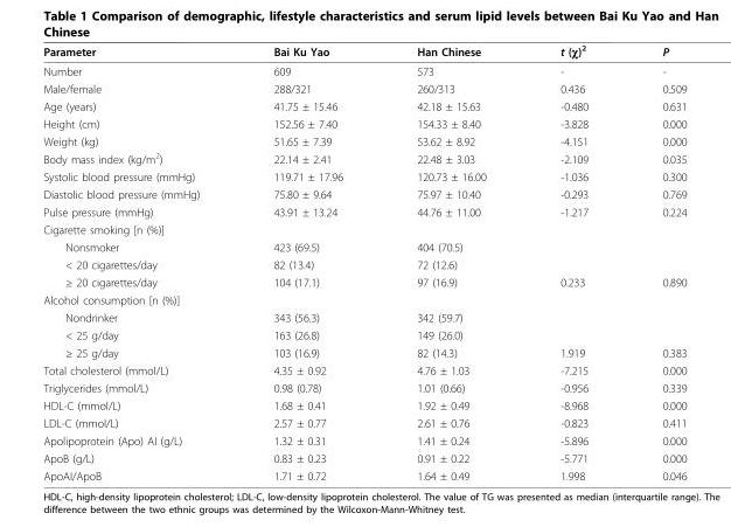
<table><thead><tr><td>Parameter</td><td>Bai Ku Yao</td><td>Han Chinese</td><td>t (χ)<sup>2</sup></td><td>P</td></tr></thead><tbody><tr><td>Number</td><td>609</td><td>573</td><td>-</td><td>-</td></tr><tr><td>Male/female</td><td>288/321</td><td>260/313</td><td>0.436</td><td>0.509</td></tr><tr><td>Age (years)</td><td>41.75 ± 15.46</td><td>42.18 ± 15.63</td><td>-0.480</td><td>0.631</td></tr><tr><td>Height (cm)</td><td>152.56 ± 7.40</td><td>154.33 ± 8.40</td><td>-3.828</td><td>0.000</td></tr><tr><td>Weight (kg)</td><td>51.65 ± 7.39</td><td>53.62 ± 8.92</td><td>-4.151</td><td>0.000</td></tr><tr><td>Body mass index (kg/m<sup>2</sup>)</td><td>22.14 ± 2.41</td><td>22.48 ± 3.03</td><td>-2.109</td><td>0.035</td></tr><tr><td>Systolic blood pressure (mmHg)</td><td>119.71 ± 17.96</td><td>120.73 ± 16.00</td><td>-1.036</td><td>0.300</td></tr><tr><td>Diastolic blood pressure (mmHg)</td><td>75.80 ± 9.64</td><td>75.97 ± 10.40</td><td>-0.293</td><td>0.769</td></tr><tr><td>Pulse pressure (mmHg)</td><td>43.91 ± 13.24</td><td>44.76 ± 11.00</td><td>-1.217</td><td>0.224</td></tr><tr><td colspan="5">Cigarette smoking [n (%)]</td></tr><tr><td>Nonsmoker</td><td>423 (69.5)</td><td>404 (70.5)</td><td></td><td></td></tr><tr><td>&lt; 20 cigarettes/day</td><td>82 (13.4)</td><td>72 (12.6)</td><td></td><td></td></tr><tr><td>≥ 20 cigarettes/day</td><td>104 (17.1)</td><td>97 (16.9)</td><td>0.233</td><td>0.890</td></tr><tr><td colspan="5">Alcohol consumption [n (%)]</td></tr><tr><td>Nondrinker</td><td>343 (56.3)</td><td>342 (59.7)</td><td></td><td></td></tr><tr><td>&lt; 25 g/day</td><td>163 (26.8)</td><td>149 (26.0)</td><td></td><td></td></tr><tr><td>≥ 25 g/day</td><td>103 (16.9)</td><td>82 (14.3)</td><td>1.919</td><td>0.383</td></tr><tr><td>Total cholesterol (mmol/L)</td><td>4.35 ± 0.92</td><td>4.76 ± 1.03</td><td>-7.215</td><td>0.000</td></tr><tr><td>Triglycerides (mmol/L)</td><td>0.98 (0.78)</td><td>1.01 (0.66)</td><td>-0.956</td><td>0.339</td></tr><tr><td>HDL-C (mmol/L)</td><td>1.68 ± 0.41</td><td>1.92 ± 0.49</td><td>-8.968</td><td>0.000</td></tr><tr><td>LDL-C (mmol/L)</td><td>2.57 ± 0.77</td><td>2.61 ± 0.76</td><td>-0.823</td><td>0.411</td></tr><tr><td>Apolipoprotein (Apo) AI (g/L)</td><td>1.32 ± 0.31</td><td>1.41 ± 0.24</td><td>-5.896</td><td>0.000</td></tr><tr><td>ApoB (g/L)</td><td>0.83 ± 0.23</td><td>0.91 ± 0.22</td><td>-5.771</td><td>0.000</td></tr><tr><td>ApoAI/ApoB</td><td>1.71 ± 0.72</td><td>1.64 ± 0.49</td><td>1.998</td><td>0.046</td></tr></tbody></table>